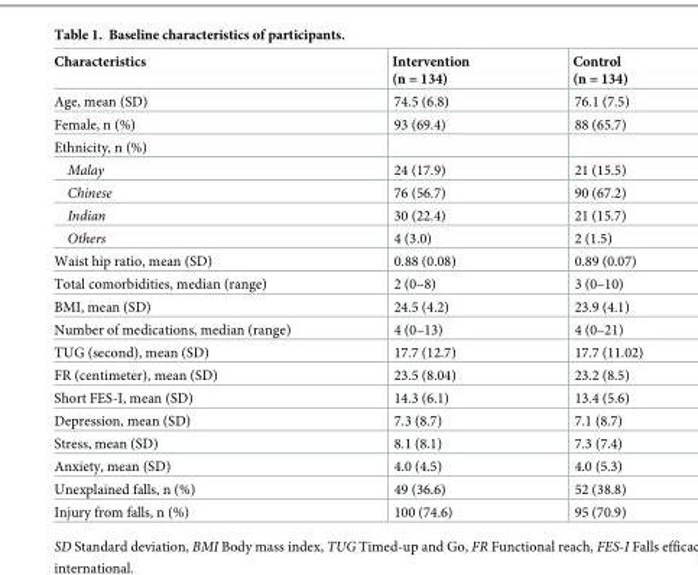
<table><thead><tr><td>Characteristics</td><td>Intervention (n = 134)</td><td>Control (n = 134)</td></tr></thead><tbody><tr><td>Age, mean (SD)</td><td>74.5 (6.8)</td><td>76.1 (7.5)</td></tr><tr><td>Female, n (%)</td><td>93 (69.4)</td><td>88 (65.7)</td></tr><tr><td colspan="3">Ethnicity, n (%)</td></tr><tr><td>Malay</td><td>24 (17.9)</td><td>21 (15.5)</td></tr><tr><td>Chinese</td><td>76 (56.7)</td><td>90 (67.2)</td></tr><tr><td>Indian</td><td>30 (22.4)</td><td>21 (15.7)</td></tr><tr><td>Others</td><td>4 (3.0)</td><td>2 (1.5)</td></tr><tr><td>Waist hip ratio, mean (SD)</td><td>0.88 (0.08)</td><td>0.89 (0.07)</td></tr><tr><td>Total comorbidities, median (range)</td><td>2 (0–8)</td><td>3 (0–10)</td></tr><tr><td>BMI, mean (SD)</td><td>24.5 (4.2)</td><td>23.9 (4.1)</td></tr><tr><td>Number of medications, median (range)</td><td>4 (0–13)</td><td>4 (0–21)</td></tr><tr><td>TUG (second), mean (SD)</td><td>17.7 (12.7)</td><td>17.7 (11.02)</td></tr><tr><td>FR (centimeter), mean (SD)</td><td>23.5 (8.04)</td><td>23.2 (8.5)</td></tr><tr><td>Short FES-I, mean (SD)</td><td>14.3 (6.1)</td><td>13.4 (5.6)</td></tr><tr><td>Depression, mean (SD)</td><td>7.3 (8.7)</td><td>7.1 (8.7)</td></tr><tr><td>Stress, mean (SD)</td><td>8.1 (8.1)</td><td>7.3 (7.4)</td></tr><tr><td>Anxiety, mean (SD)</td><td>4.0 (4.5)</td><td>4.0 (5.3)</td></tr><tr><td>Unexplained falls, n (%)</td><td>49 (36.6)</td><td>52 (38.8)</td></tr><tr><td>Injury from falls, n (%)</td><td>100 (74.6)</td><td>95 (70.9)</td></tr></tbody></table>